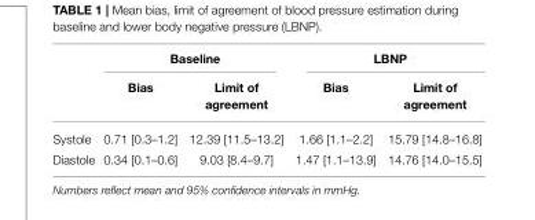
<table><thead><tr><td rowspan="2"></td><td colspan="2">Baseline</td><td colspan="2">LBNP</td></tr><tr><td>Bias</td><td>Limit of agreement</td><td>Bias</td><td>Limit of agreement</td></tr></thead><tbody><tr><td>Systole</td><td>0.71 [0.3–1.2]</td><td>12.39 [11.5–13.2]</td><td>1.66 [1.1–2.2]</td><td>15.79 [14.8–16.8]</td></tr><tr><td>Diastole</td><td>0.34 [0.1–0.6]</td><td>9.03 [8.4–9.7]</td><td>1.47 [1.1–13.9]</td><td>14.76 [14.0–15.5]</td></tr></tbody></table>